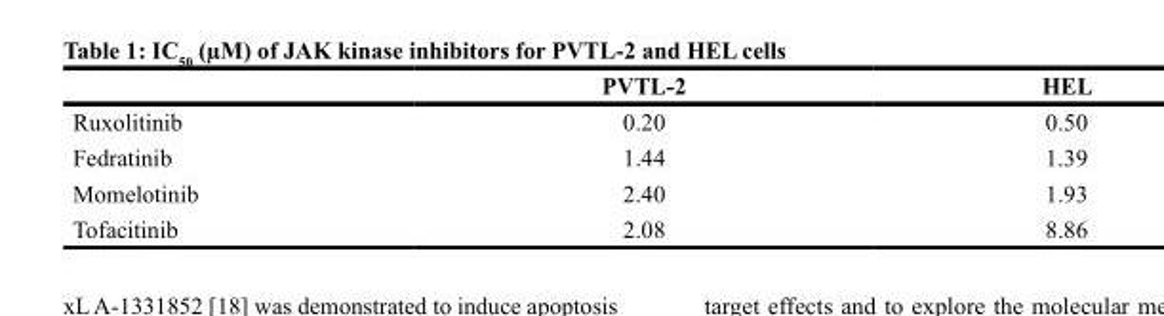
<table><thead><tr><td></td><td>PVTL-2</td><td>HEL</td></tr></thead><tbody><tr><td>Ruxolitinib</td><td>0.20</td><td>0.50</td></tr><tr><td>Fedratinib</td><td>1.44</td><td>1.39</td></tr><tr><td>Momelotinib</td><td>2.40</td><td>1.93</td></tr><tr><td>Tofacitinib</td><td>2.08</td><td>8.86</td></tr></tbody></table>